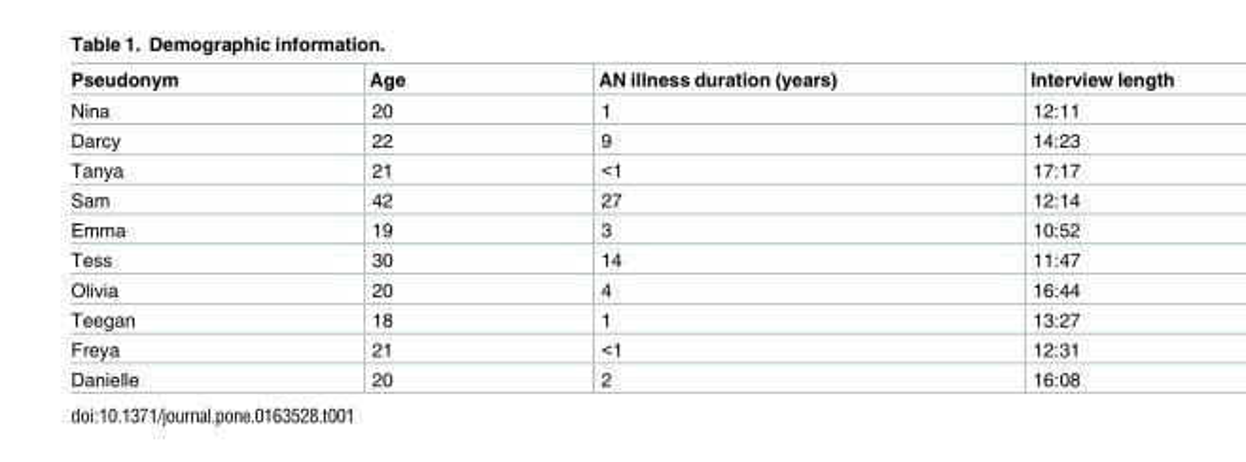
<table><thead><tr><td>Pseudonym</td><td>Age</td><td>AN illness duration (years)</td><td>Interview length</td></tr></thead><tbody><tr><td>Nina</td><td>20</td><td>1</td><td>12:11</td></tr><tr><td>Darcy</td><td>22</td><td>9</td><td>14:23</td></tr><tr><td>Tanya</td><td>21</td><td>&lt;1</td><td>17:17</td></tr><tr><td>Sam</td><td>42</td><td>27</td><td>12:14</td></tr><tr><td>Emma</td><td>19</td><td>3</td><td>10:52</td></tr><tr><td>Tess</td><td>30</td><td>14</td><td>11:47</td></tr><tr><td>Olivia</td><td>20</td><td>4</td><td>16:44</td></tr><tr><td>Teegan</td><td>18</td><td>1</td><td>13:27</td></tr><tr><td>Freya</td><td>21</td><td>&lt;1</td><td>12:31</td></tr><tr><td>Danielle</td><td>20</td><td>2</td><td>16:08</td></tr></tbody></table>